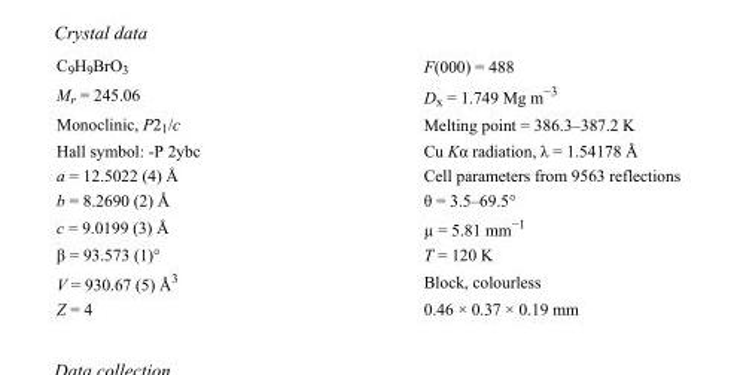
<table><tbody><tr><td>C<sub>9</sub>H<sub>9</sub>BrO<sub>3</sub></td><td>F(000) = 488</td></tr><tr><td>M<sub>r</sub> = 245.06</td><td>D<sub>x</sub> = 1.749 Mg m<sup>−3</sup></td></tr><tr><td>Monoclinic, P2<sub>1</sub>/c</td><td>Melting point = 386.3–387.2 K</td></tr><tr><td>Hall symbol: -P 2ybc</td><td>Cu Kα radiation, λ = 1.54178 Å</td></tr><tr><td>a = 12.5022 (4) Å</td><td>Cell parameters from 9563 reflections</td></tr><tr><td>b = 8.2690 (2) Å</td><td>θ = 3.5–69.5°</td></tr><tr><td>c = 9.0199 (3) Å</td><td>µ = 5.81 mm<sup>−1</sup></td></tr><tr><td>β = 93.573 (1)°</td><td>T = 120 K</td></tr><tr><td>V = 930.67 (5) Å<sup>3</sup></td><td>Block, colourless</td></tr><tr><td>Z = 4</td><td>0.46 × 0.37 × 0.19 mm</td></tr></tbody></table>